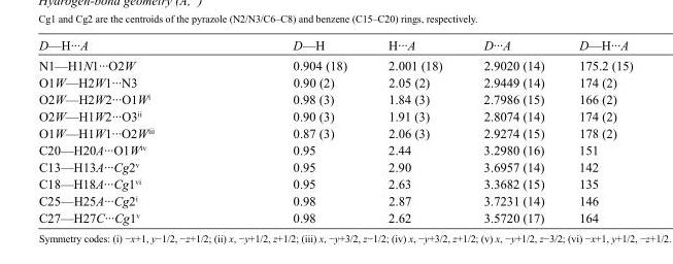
<table><tbody><tr><td>D—H···A</td><td>D—H</td><td>H···A</td><td>D···A</td><td>D—H···A</td></tr><tr><td>N1—H1N1···O2W</td><td>0.904 (18)</td><td>2.001 (18)</td><td>2.9020 (14)</td><td>175.2 (15)</td></tr><tr><td>O1W—H2W1···N3</td><td>0.90 (2)</td><td>2.05 (2)</td><td>2.9449 (14)</td><td>174 (2)</td></tr><tr><td>O2W—H2W2···O1W<sup>i</sup></td><td>0.98 (3)</td><td>1.84 (3)</td><td>2.7986 (15)</td><td>166 (2)</td></tr><tr><td>O2W—H1W2···O3<sup>ii</sup></td><td>0.90 (3)</td><td>1.91 (3)</td><td>2.8074 (14)</td><td>174 (2)</td></tr><tr><td>O1W—H1W1···O2W<sup>iii</sup></td><td>0.87 (3)</td><td>2.06 (3)</td><td>2.9274 (15)</td><td>178 (2)</td></tr><tr><td>C20—H20A···O1W<sup>iv</sup></td><td>0.95</td><td>2.44</td><td>3.2980 (16)</td><td>151</td></tr><tr><td>C13—H13A···Cg2<sup>v</sup></td><td>0.95</td><td>2.90</td><td>3.6957 (14)</td><td>142</td></tr><tr><td>C18—H18A···Cg1<sup>vi</sup></td><td>0.95</td><td>2.63</td><td>3.3682 (15)</td><td>135</td></tr><tr><td>C25—H25A···Cg2<sup>i</sup></td><td>0.98</td><td>2.87</td><td>3.7231 (14)</td><td>146</td></tr><tr><td>C27—H27C···Cg1<sup>v</sup></td><td>0.98</td><td>2.62</td><td>3.5720 (17)</td><td>164</td></tr></tbody></table>